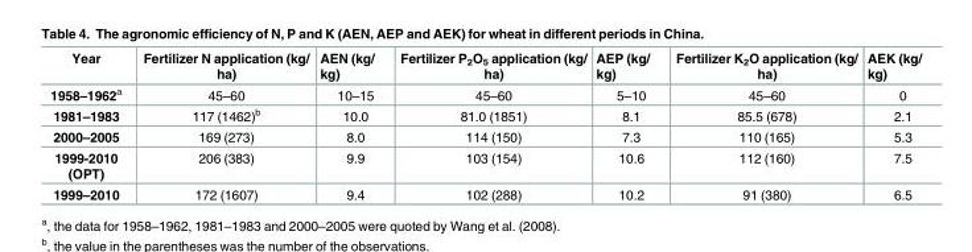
<table><thead><tr><td>Year</td><td>Fertilizer N application (kg/ ha)</td><td>AEN (kg/ kg)</td><td>Fertilizer P<sub>2</sub>O<sub>5</sub> application (kg/ ha)</td><td>AEP (kg/ kg)</td><td>Fertilizer K<sub>2</sub>O application (kg/ ha)</td><td>AEK (kg/ kg)</td></tr></thead><tbody><tr><td>1958–1962<sup>a</sup></td><td>45–60</td><td>10–15</td><td>45–60</td><td>5–10</td><td>45–60</td><td>0</td></tr><tr><td>1981–1983</td><td>117 (1462)<sup>b</sup></td><td>10.0</td><td>81.0 (1851)</td><td>8.1</td><td>85.5 (678)</td><td>2.1</td></tr><tr><td>2000–2005</td><td>169 (273)</td><td>8.0</td><td>114 (150)</td><td>7.3</td><td>110 (165)</td><td>5.3</td></tr><tr><td>1999-2010 (OPT)</td><td>206 (383)</td><td>9.9</td><td>103 (154)</td><td>10.6</td><td>112 (160)</td><td>7.5</td></tr><tr><td>1999–2010</td><td>172 (1607)</td><td>9.4</td><td>102 (288)</td><td>10.2</td><td>91 (380)</td><td>6.5</td></tr></tbody></table>